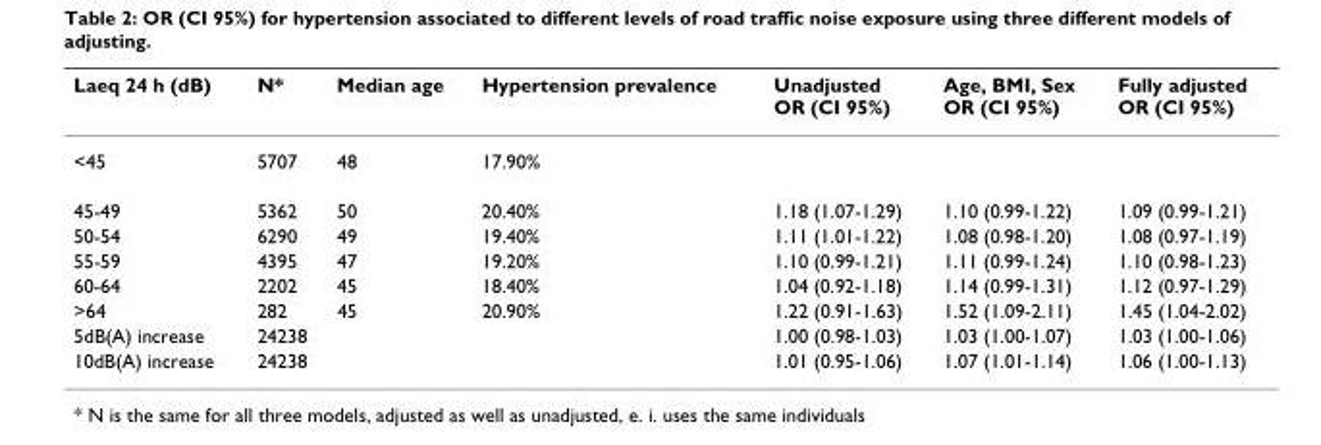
<table><thead><tr><td>Laeq 24 h (dB)</td><td>N*</td><td>Median age</td><td>Hypertension prevalence</td><td>Unadjusted OR (CI 95%)</td><td>Age, BMI, Sex OR (CI 95%)</td><td>Fully adjusted OR (CI 95%)</td></tr></thead><tbody><tr><td>&lt;45</td><td>5707</td><td>48</td><td>17.90%</td><td></td><td></td><td></td></tr><tr><td>45-49</td><td>5362</td><td>50</td><td>20.40%</td><td>1.18 (1.07-1.29)</td><td>1.10 (0.99-1.22)</td><td>1.09 (0.99-1.21)</td></tr><tr><td>50-54</td><td>6290</td><td>49</td><td>19.40%</td><td>1.11 (1.01-1.22)</td><td>1.08 (0.98-1.20)</td><td>1.08 (0.97-1.19)</td></tr><tr><td>55-59</td><td>4395</td><td>47</td><td>19.20%</td><td>1.10 (0.99-1.21)</td><td>1.11 (0.99-1.24)</td><td>1.10 (0.98-1.23)</td></tr><tr><td>60-64</td><td>2202</td><td>45</td><td>18.40%</td><td>1.04 (0.92-1.18)</td><td>1.14 (0.99-1.31)</td><td>1.12 (0.97-1.29)</td></tr><tr><td>&gt;64</td><td>282</td><td>45</td><td>20.90%</td><td>1.22 (0.91-1.63)</td><td>1.52 (1.09-2.11)</td><td>1.45 (1.04-2.02)</td></tr><tr><td>5dB(A) increase</td><td>24238</td><td></td><td></td><td>1.00 (0.98-1.03)</td><td>1.03 (1.00-1.07)</td><td>1.03 (1.00-1.06)</td></tr><tr><td>10dB(A) increase</td><td>24238</td><td></td><td></td><td>1.01 (0.95-1.06)</td><td>1.07 (1.01-1.14)</td><td>1.06 (1.00-1.13)</td></tr></tbody></table>